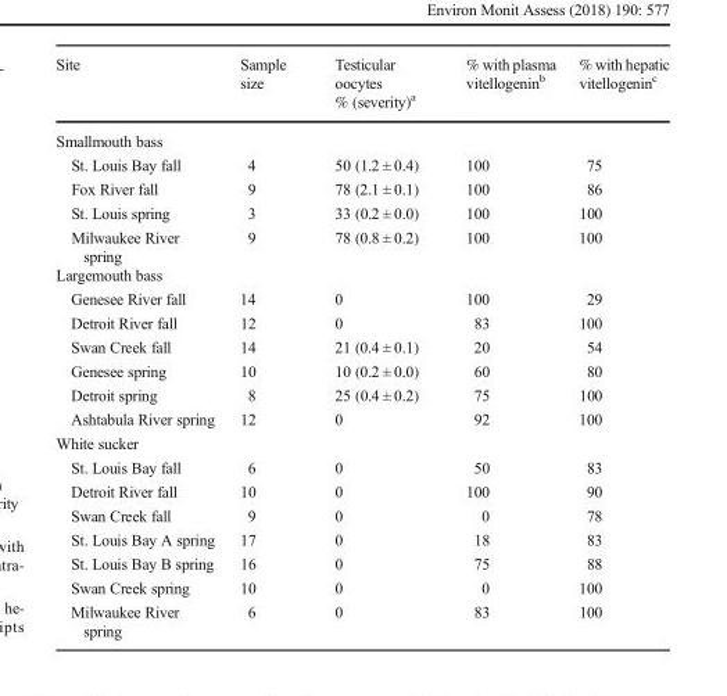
<table><thead><tr><td>Site</td><td>Sample size</td><td>Testicular oocytes % (severity)<sup>a</sup></td><td>% with plasma vitellogenin<sup>b</sup></td><td>% with hepatic vitellogenin<sup>c</sup></td></tr></thead><tbody><tr><td colspan="5">Smallmouth bass</td></tr><tr><td>St. Louis Bay fall</td><td>4</td><td>50 (1.2 ± 0.4)</td><td>100</td><td>75</td></tr><tr><td>Fox River fall</td><td>9</td><td>78 (2.1 ± 0.1)</td><td>100</td><td>86</td></tr><tr><td>St. Louis spring</td><td>3</td><td>33 (0.2 ± 0.0)</td><td>100</td><td>100</td></tr><tr><td>Milwaukee River spring</td><td>9</td><td>78 (0.8 ± 0.2)</td><td>100</td><td>100</td></tr><tr><td colspan="5">Largemouth bass</td></tr><tr><td>Genesee River fall</td><td>14</td><td>0</td><td>100</td><td>29</td></tr><tr><td>Detroit River fall</td><td>12</td><td>0</td><td>83</td><td>100</td></tr><tr><td>Swan Creek fall</td><td>14</td><td>21 (0.4 ± 0.1)</td><td>20</td><td>54</td></tr><tr><td>Genesee spring</td><td>10</td><td>10 (0.2 ± 0.0)</td><td>60</td><td>80</td></tr><tr><td>Detroit spring</td><td>8</td><td>25 (0.4 ± 0.2)</td><td>75</td><td>100</td></tr><tr><td>Ashtabula River spring</td><td>12</td><td>0</td><td>92</td><td>100</td></tr><tr><td colspan="5">White sucker</td></tr><tr><td>St. Louis Bay fall</td><td>6</td><td>0</td><td>50</td><td>83</td></tr><tr><td>Detroit River fall</td><td>10</td><td>0</td><td>100</td><td>90</td></tr><tr><td>Swan Creek fall</td><td>9</td><td>0</td><td>0</td><td>78</td></tr><tr><td>St. Louis Bay A spring</td><td>17</td><td>0</td><td>18</td><td>83</td></tr><tr><td>St. Louis Bay B spring</td><td>16</td><td>0</td><td>75</td><td>88</td></tr><tr><td>Swan Creek spring</td><td>10</td><td>0</td><td>0</td><td>100</td></tr><tr><td>Milwaukee River spring</td><td>6</td><td>0</td><td>83</td><td>100</td></tr></tbody></table>